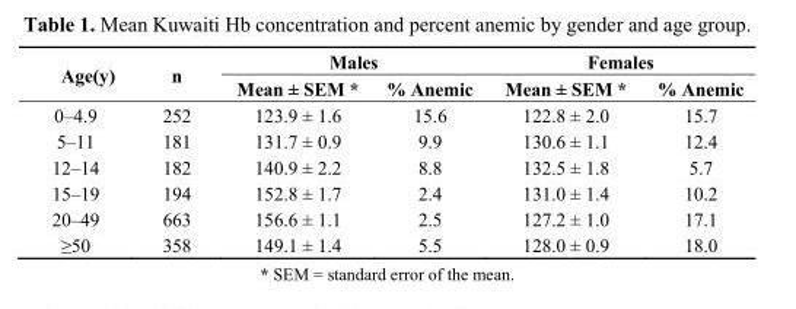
<table><thead><tr><td rowspan="2">Age(y)</td><td rowspan="2">n</td><td colspan="2">Males</td><td colspan="2">Females</td></tr><tr><td>Mean ± SEM *</td><td>% Anemic</td><td>Mean ± SEM *</td><td>% Anemic</td></tr></thead><tbody><tr><td>0–4.9</td><td>252</td><td>123.9 ± 1.6</td><td>15.6</td><td>122.8 ± 2.0</td><td>15.7</td></tr><tr><td>5–11</td><td>181</td><td>131.7 ± 0.9</td><td>9.9</td><td>130.6 ± 1.1</td><td>12.4</td></tr><tr><td>12–14</td><td>182</td><td>140.9 ± 2.2</td><td>8.8</td><td>132.5 ± 1.8</td><td>5.7</td></tr><tr><td>15–19</td><td>194</td><td>152.8 ± 1.7</td><td>2.4</td><td>131.0 ± 1.4</td><td>10.2</td></tr><tr><td>20–49</td><td>663</td><td>156.6 ± 1.1</td><td>2.5</td><td>127.2 ± 1.0</td><td>17.1</td></tr><tr><td>≥50</td><td>358</td><td>149.1 ± 1.4</td><td>5.5</td><td>128.0 ± 0.9</td><td>18.0</td></tr></tbody></table>